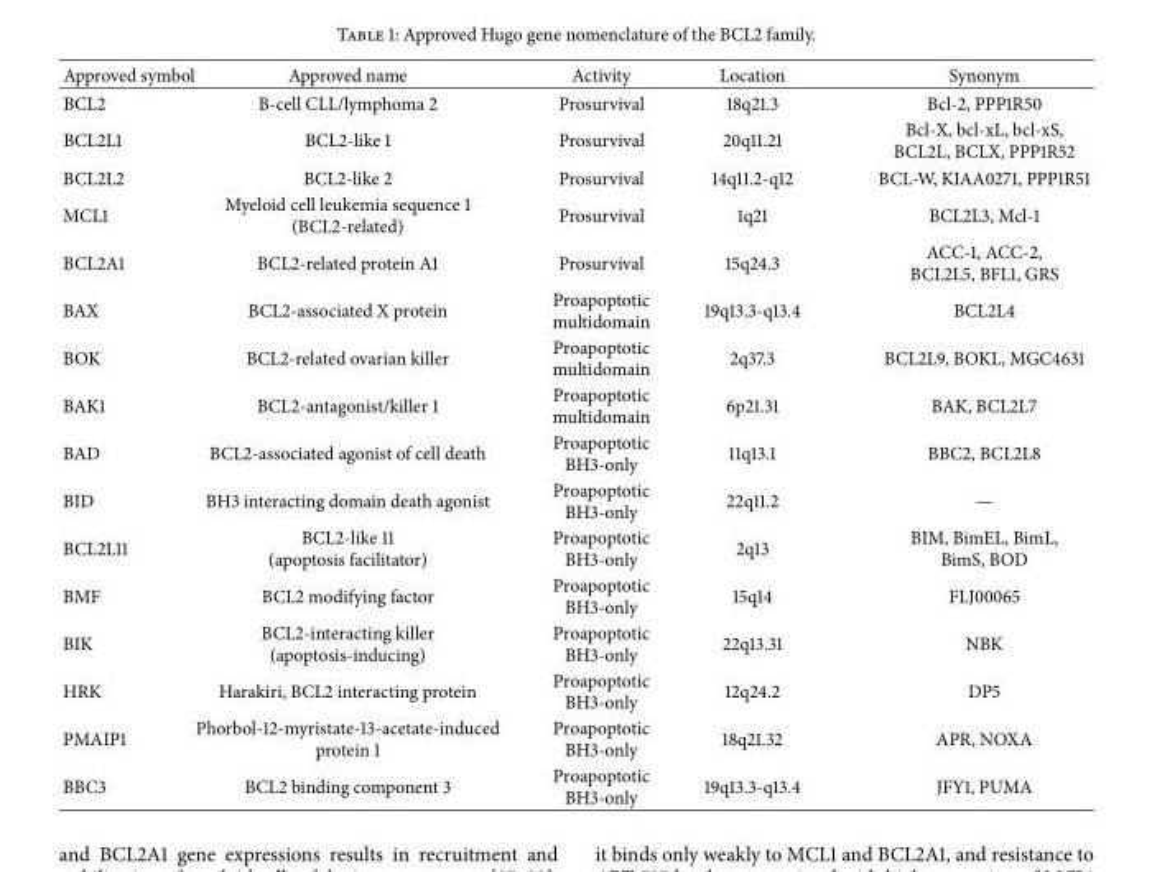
<table><thead><tr><td>Approved symbol</td><td>Approved name</td><td>Activity</td><td>Location</td><td>Synonym</td></tr></thead><tbody><tr><td>BCL2</td><td>B-cell CLL/lymphoma 2</td><td>Prosurvival</td><td>18q21.3</td><td>Bcl-2, PPP1R50</td></tr><tr><td>BCL2L1</td><td>BCL2-like 1</td><td>Prosurvival</td><td>20q11.21</td><td>Bcl-X, bcl-xL, bcl-xS, BCL2L, BCLX, PPP1R52</td></tr><tr><td>BCL2L2</td><td>BCL2-like 2</td><td>Prosurvival</td><td>14q11.2-q12</td><td>BCL-W, KIAA0271, PPP1R51</td></tr><tr><td>MCL1</td><td>Myeloid cell leukemia sequence 1 (BCL2-related)</td><td>Prosurvival</td><td>1q21</td><td>BCL2L3, Mcl-1</td></tr><tr><td>BCL2A1</td><td>BCL2-related protein A1</td><td>Prosurvival</td><td>15q24.3</td><td>ACC-1, ACC-2, BCL2L5, BFL1, GRS</td></tr><tr><td>BAX</td><td>BCL2-associated X protein</td><td>Proapoptotic multidomain</td><td>19q13.3-q13.4</td><td>BCL2L4</td></tr><tr><td>BOK</td><td>BCL2-related ovarian killer</td><td>Proapoptotic multidomain</td><td>2q37.3</td><td>BCL2L9, BOKL, MGC4631</td></tr><tr><td>BAK1</td><td>BCL2-antagonist/killer 1</td><td>Proapoptotic multidomain</td><td>6p21.31</td><td>BAK, BCL2L7</td></tr><tr><td>BAD</td><td>BCL2-associated agonist of cell death</td><td>Proapoptotic BH3-only</td><td>11q13.1</td><td>BBC2, BCL2L8</td></tr><tr><td>BID</td><td>BH3 interacting domain death agonist</td><td>Proapoptotic BH3-only</td><td>22q11.2</td><td>—</td></tr><tr><td>BCL2L11</td><td>BCL2-like 11 (apoptosis facilitator)</td><td>Proapoptotic BH3-only</td><td>2q13</td><td>BIM, BimEL, BimL, BimS, BOD</td></tr><tr><td>BMF</td><td>BCL2 modifying factor</td><td>Proapoptotic BH3-only</td><td>15q14</td><td>FLJ00065</td></tr><tr><td>BIK</td><td>BCL2-interacting killer (apoptosis-inducing)</td><td>Proapoptotic BH3-only</td><td>22q13.31</td><td>NBK</td></tr><tr><td>HRK</td><td>Harakiri, BCL2 interacting protein</td><td>Proapoptotic BH3-only</td><td>12q24.2</td><td>DP5</td></tr><tr><td>PMAIP1</td><td>Phorbol-12-myristate-13-acetate-induced protein 1</td><td>Proapoptotic BH3-only</td><td>18q21.32</td><td>APR, NOXA</td></tr><tr><td>BBC3</td><td>BCL2 binding component 3</td><td>Proapoptotic BH3-only</td><td>19q13.3-q13.4</td><td>JFY1, PUMA</td></tr></tbody></table>